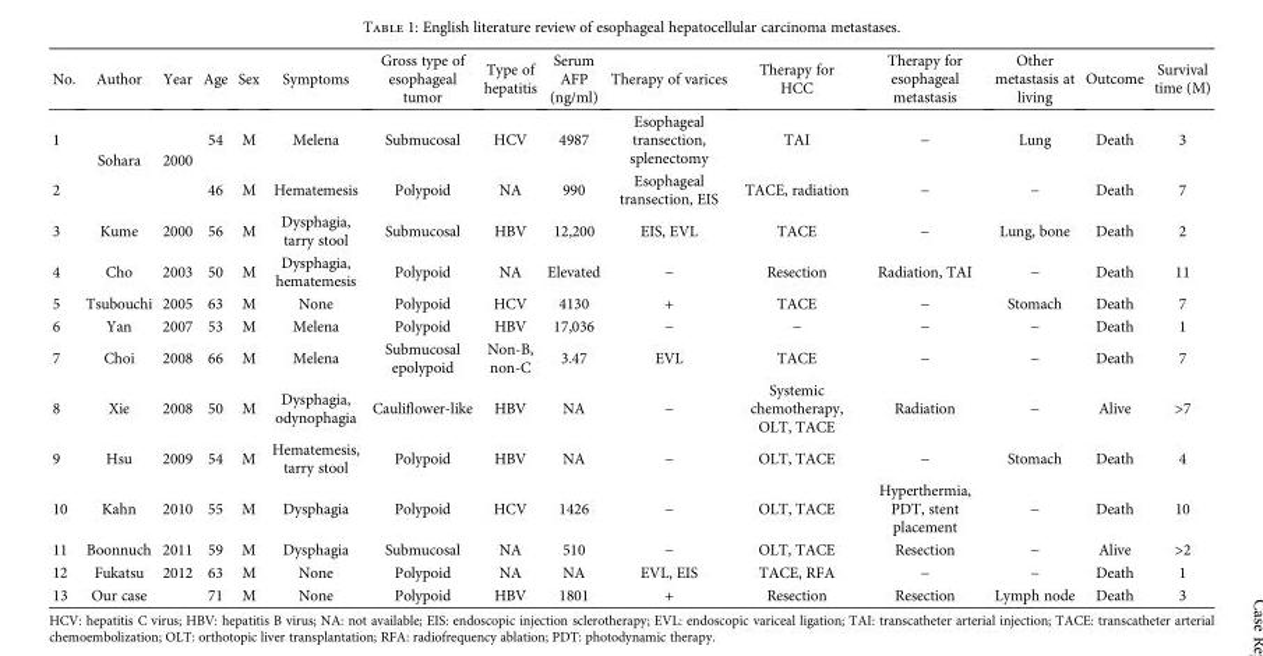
<table><thead><tr><td>No.</td><td>Author</td><td>Year</td><td>Age</td><td>Sex</td><td>Symptoms</td><td>Gross type of esophageal tumor</td><td>Type of hepatitis</td><td>Serum AFP (ng/ml)</td><td>Therapy of varices</td><td>Therapy for HCC</td><td>Therapy for esophageal metastasis</td><td>Other metastasis at living</td><td>Outcome</td><td>Survival time (M)</td></tr></thead><tbody><tr><td>1</td><td rowspan="2">Sohara</td><td rowspan="2">2000</td><td>54</td><td>M</td><td>Melena</td><td>Submucosal</td><td>HCV</td><td>4987</td><td>Esophageal transection, splenectomy</td><td>TAI</td><td>−</td><td>Lung</td><td>Death</td><td>3</td></tr><tr><td>2</td><td>46</td><td>M</td><td>Hematemesis</td><td>Polypoid</td><td>NA</td><td>990</td><td>Esophageal transection, EIS</td><td>TACE, radiation</td><td>−</td><td>−</td><td>Death</td><td>7</td></tr><tr><td>3</td><td>Kume</td><td>2000</td><td>56</td><td>M</td><td>Dysphagia, tarry stool</td><td>Submucosal</td><td>HBV</td><td>12,200</td><td>EIS, EVL</td><td>TACE</td><td>−</td><td>Lung, bone</td><td>Death</td><td>2</td></tr><tr><td>4</td><td>Cho</td><td>2003</td><td>50</td><td>M</td><td>Dysphagia, hematemesis</td><td>Polypoid</td><td>NA</td><td>Elevated</td><td>−</td><td>Resection</td><td>Radiation, TAI</td><td>−</td><td>Death</td><td>11</td></tr><tr><td>5</td><td>Tsubouchi</td><td>2005</td><td>63</td><td>M</td><td>None</td><td>Polypoid</td><td>HCV</td><td>4130</td><td>+</td><td>TACE</td><td>−</td><td>Stomach</td><td>Death</td><td>7</td></tr><tr><td>6</td><td>Yan</td><td>2007</td><td>53</td><td>M</td><td>Melena</td><td>Polypoid</td><td>HBV</td><td>17,036</td><td>−</td><td>−</td><td>−</td><td>−</td><td>Death</td><td>1</td></tr><tr><td>7</td><td>Choi</td><td>2008</td><td>66</td><td>M</td><td>Melena</td><td>Submucosal epolypoid</td><td>Non-B, non-C</td><td>3.47</td><td>EVL</td><td>TACE</td><td>−</td><td>−</td><td>Death</td><td>7</td></tr><tr><td>8</td><td>Xie</td><td>2008</td><td>50</td><td>M</td><td>Dysphagia, odynophagia</td><td>Cauliflower-like</td><td>HBV</td><td>NA</td><td>−</td><td>Systemic chemotherapy, OLT, TACE</td><td>Radiation</td><td>−</td><td>Alive</td><td>&gt;7</td></tr><tr><td>9</td><td>Hsu</td><td>2009</td><td>54</td><td>M</td><td>Hematemesis, tarry stool</td><td>Polypoid</td><td>HBV</td><td>NA</td><td>−</td><td>OLT, TACE</td><td>−</td><td>Stomach</td><td>Death</td><td>4</td></tr><tr><td>10</td><td>Kahn</td><td>2010</td><td>55</td><td>M</td><td>Dysphagia</td><td>Polypoid</td><td>HCV</td><td>1426</td><td>−</td><td>OLT, TACE</td><td>Hyperthermia, PDT, stent placement</td><td>−</td><td>Death</td><td>10</td></tr><tr><td>11</td><td>Boonnuch</td><td>2011</td><td>59</td><td>M</td><td>Dysphagia</td><td>Submucosal</td><td>NA</td><td>510</td><td>−</td><td>OLT, TACE</td><td>Resection</td><td>−</td><td>Alive</td><td>&gt;2</td></tr><tr><td>12</td><td>Fukatsu</td><td>2012</td><td>63</td><td>M</td><td>None</td><td>Polypoid</td><td>NA</td><td>NA</td><td>EVL, EIS</td><td>TACE, RFA</td><td>−</td><td>−</td><td>Death</td><td>1</td></tr><tr><td>13</td><td>Our case</td><td></td><td>71</td><td>M</td><td>None</td><td>Polypoid</td><td>HBV</td><td>1801</td><td>+</td><td>Resection</td><td>Resection</td><td>Lymph node</td><td>Death</td><td>3</td></tr></tbody></table>